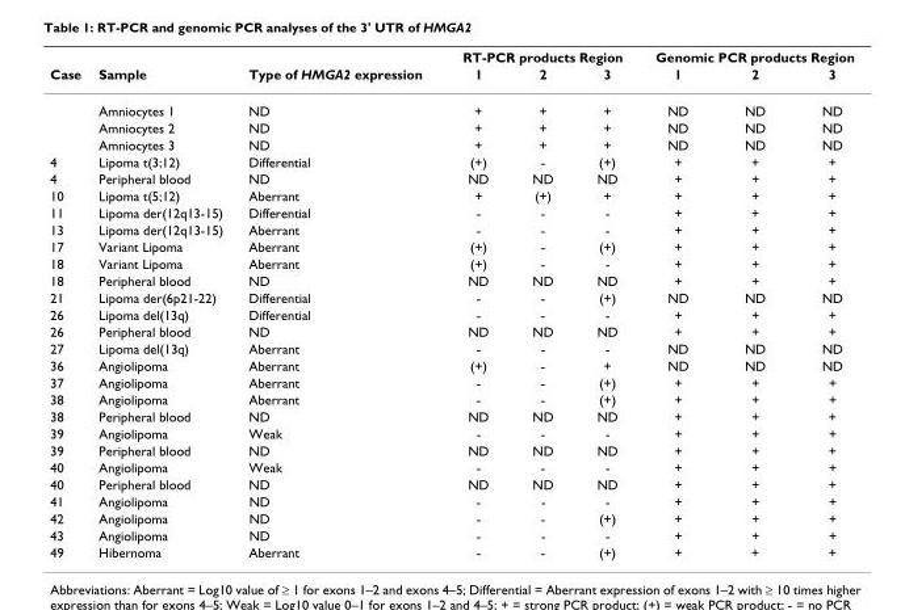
<table><thead><tr><td rowspan="2">Case</td><td rowspan="2">Sample</td><td rowspan="2">Type of HMGA2 expression</td><td colspan="3">RT-PCR products Region</td><td colspan="3">Genomic PCR products Region</td></tr><tr><td>1</td><td>2</td><td>3</td><td>1</td><td>2</td><td>3</td></tr></thead><tbody><tr><td></td><td>Amniocytes 1</td><td>ND</td><td>+</td><td>+</td><td>+</td><td>ND</td><td>ND</td><td>ND</td></tr><tr><td></td><td>Amniocytes 2</td><td>ND</td><td>+</td><td>+</td><td>+</td><td>ND</td><td>ND</td><td>ND</td></tr><tr><td></td><td>Amniocytes 3</td><td>ND</td><td>+</td><td>+</td><td>+</td><td>ND</td><td>ND</td><td>ND</td></tr><tr><td>4</td><td>Lipoma t(3;12)</td><td>Differential</td><td>(+)</td><td>-</td><td>(+)</td><td>+</td><td>+</td><td>+</td></tr><tr><td>4</td><td>Peripheral blood</td><td>ND</td><td>ND</td><td>ND</td><td>ND</td><td>+</td><td>+</td><td>+</td></tr><tr><td>10</td><td>Lipoma t(5;12)</td><td>Aberrant</td><td>+</td><td>(+)</td><td>+</td><td>+</td><td>+</td><td>+</td></tr><tr><td>11</td><td>Lipoma der(12q13-15)</td><td>Differential</td><td>-</td><td>-</td><td>-</td><td>+</td><td>+</td><td>+</td></tr><tr><td>13</td><td>Lipoma der(12q13-15)</td><td>Aberrant</td><td>-</td><td>-</td><td>-</td><td>+</td><td>+</td><td>+</td></tr><tr><td>17</td><td>Variant Lipoma</td><td>Aberrant</td><td>(+)</td><td>-</td><td>(+)</td><td>+</td><td>+</td><td>+</td></tr><tr><td>18</td><td>Variant Lipoma</td><td>Aberrant</td><td>(+)</td><td>-</td><td>-</td><td>+</td><td>+</td><td>+</td></tr><tr><td>18</td><td>Peripheral blood</td><td>ND</td><td>ND</td><td>ND</td><td>ND</td><td>+</td><td>+</td><td>+</td></tr><tr><td>21</td><td>Lipoma der(6p21-22)</td><td>Differential</td><td>-</td><td>-</td><td>(+)</td><td>ND</td><td>ND</td><td>ND</td></tr><tr><td>26</td><td>Lipoma del(13q)</td><td>Differential</td><td>-</td><td>-</td><td>-</td><td>+</td><td>+</td><td>+</td></tr><tr><td>26</td><td>Peripheral blood</td><td>ND</td><td>ND</td><td>ND</td><td>ND</td><td>+</td><td>+</td><td>+</td></tr><tr><td>27</td><td>Lipoma del(13q)</td><td>Aberrant</td><td>-</td><td>-</td><td>-</td><td>ND</td><td>ND</td><td>ND</td></tr><tr><td>36</td><td>Angiolipoma</td><td>Aberrant</td><td>(+)</td><td>-</td><td>+</td><td>ND</td><td>ND</td><td>ND</td></tr><tr><td>37</td><td>Angiolipoma</td><td>Aberrant</td><td>-</td><td>-</td><td>(+)</td><td>+</td><td>+</td><td>+</td></tr><tr><td>38</td><td>Angiolipoma</td><td>Aberrant</td><td>-</td><td>-</td><td>(+)</td><td>+</td><td>+</td><td>+</td></tr><tr><td>38</td><td>Peripheral blood</td><td>ND</td><td>ND</td><td>ND</td><td>ND</td><td>+</td><td>+</td><td>+</td></tr><tr><td>39</td><td>Angiolipoma</td><td>Weak</td><td>-</td><td>-</td><td>-</td><td>+</td><td>+</td><td>+</td></tr><tr><td>39</td><td>Peripheral blood</td><td>ND</td><td>ND</td><td>ND</td><td>ND</td><td>+</td><td>+</td><td>+</td></tr><tr><td>40</td><td>Angiolipoma</td><td>Weak</td><td>-</td><td>-</td><td>-</td><td>+</td><td>+</td><td>+</td></tr><tr><td>40</td><td>Peripheral blood</td><td>ND</td><td>ND</td><td>ND</td><td>ND</td><td>+</td><td>+</td><td>+</td></tr><tr><td>41</td><td>Angiolipoma</td><td>ND</td><td>-</td><td>-</td><td>-</td><td>+</td><td>+</td><td>+</td></tr><tr><td>42</td><td>Angiolipoma</td><td>ND</td><td>-</td><td>-</td><td>(+)</td><td>+</td><td>+</td><td>+</td></tr><tr><td>43</td><td>Angiolipoma</td><td>ND</td><td>-</td><td>-</td><td>-</td><td>+</td><td>+</td><td>+</td></tr><tr><td>49</td><td>Hibernoma</td><td>Aberrant</td><td>-</td><td>-</td><td>(+)</td><td>+</td><td>+</td><td>+</td></tr></tbody></table>